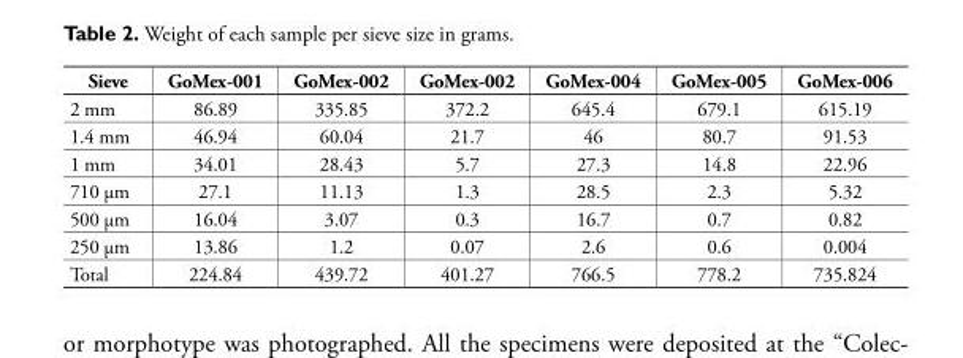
<table><thead><tr><td>Sieve</td><td>GoMex-001</td><td>GoMex-002</td><td>GoMex-002</td><td>GoMex-004</td><td>GoMex-005</td><td>GoMex-006</td></tr></thead><tbody><tr><td>2 mm</td><td>86.89</td><td>335.85</td><td>372.2</td><td>645.4</td><td>679.1</td><td>615.19</td></tr><tr><td>1.4 mm</td><td>46.94</td><td>60.04</td><td>21.7</td><td>46</td><td>80.7</td><td>91.53</td></tr><tr><td>1 mm</td><td>34.01</td><td>28.43</td><td>5.7</td><td>27.3</td><td>14.8</td><td>22.96</td></tr><tr><td>710 µm</td><td>27.1</td><td>11.13</td><td>1.3</td><td>28.5</td><td>2.3</td><td>5.32</td></tr><tr><td>500 µm</td><td>16.04</td><td>3.07</td><td>0.3</td><td>16.7</td><td>0.7</td><td>0.82</td></tr><tr><td>250 µm</td><td>13.86</td><td>1.2</td><td>0.07</td><td>2.6</td><td>0.6</td><td>0.004</td></tr><tr><td>Total</td><td>224.84</td><td>439.72</td><td>401.27</td><td>766.5</td><td>778.2</td><td>735.824</td></tr></tbody></table>